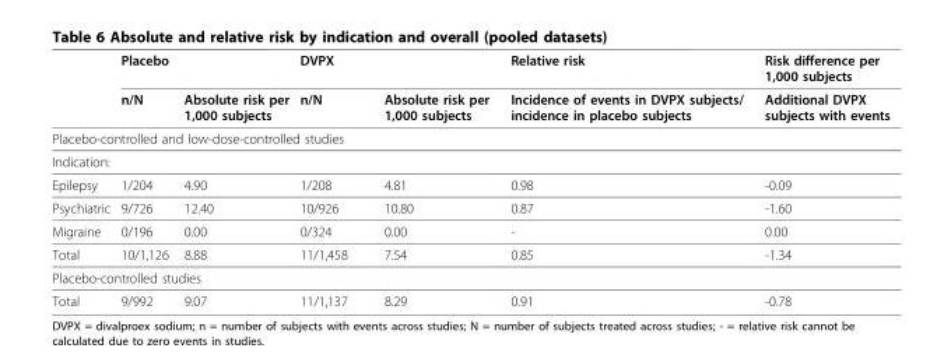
<table><thead><tr><td rowspan="2"></td><td colspan="2">Placebo</td><td colspan="2">DVPX</td><td rowspan="2">Relative risk Incidence of events in DVPX subjects/ incidence in placebo subjects</td><td rowspan="2">Risk difference per 1,000 subjects Additional DVPX subjects with events</td></tr><tr><td>n/N</td><td>Absolute risk per 1,000 subjects</td><td>n/N</td><td>Absolute risk per 1,000 subjects</td></tr></thead><tbody><tr><td colspan="7">Placebo-controlled and low-dose-controlled studies</td></tr><tr><td colspan="7">Indication:</td></tr><tr><td>Epilepsy</td><td>1/204</td><td>4.90</td><td>1/208</td><td>4.81</td><td>0.98</td><td>-0.09</td></tr><tr><td>Psychiatric</td><td>9/726</td><td>12.40</td><td>10/926</td><td>10.80</td><td>0.87</td><td>-1.60</td></tr><tr><td>Migraine</td><td>0/196</td><td>0.00</td><td>0/324</td><td>0.00</td><td>-</td><td>0.00</td></tr><tr><td>Total</td><td>10/1,126</td><td>8.88</td><td>11/1,458</td><td>7.54</td><td>0.85</td><td>-1.34</td></tr><tr><td colspan="7">Placebo-controlled studies</td></tr><tr><td>Total</td><td>9/992</td><td>9.07</td><td>11/1,137</td><td>8.29</td><td>0.91</td><td>-0.78</td></tr></tbody></table>